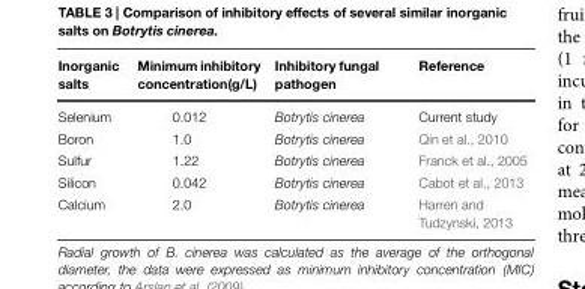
<table><thead><tr><td>Inorganic salts</td><td>Minimum inhibitory concentration(g/L)</td><td>Inhibitory fungal pathogen</td><td>Reference</td></tr></thead><tbody><tr><td>Selenium</td><td>0.012</td><td>Botrytis cinerea</td><td>Current study</td></tr><tr><td>Boron</td><td>1.0</td><td>Botrytis cinerea</td><td>Qin et al., 2010</td></tr><tr><td>Sulfur</td><td>1.22</td><td>Botrytis cinerea</td><td>Franck et al., 2005</td></tr><tr><td>Silicon</td><td>0.042</td><td>Botrytis cinerea</td><td>Cabot et al., 2013</td></tr><tr><td>Calcium</td><td>2.0</td><td>Botrytis cinerea</td><td>Harren and Tudzynski, 2013</td></tr></tbody></table>